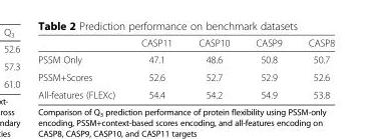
<table><thead><tr><td></td><td>CASP11</td><td>CASP10</td><td>CASP9</td><td>CASP8</td></tr></thead><tbody><tr><td>PSSM Only</td><td>47.1</td><td>48.6</td><td>50.8</td><td>50.7</td></tr><tr><td>PSSM+Scores</td><td>52.6</td><td>52.7</td><td>52.9</td><td>52.6</td></tr><tr><td>All-features (FLEXc)</td><td>54.4</td><td>54.2</td><td>54.9</td><td>53.8</td></tr></tbody></table>